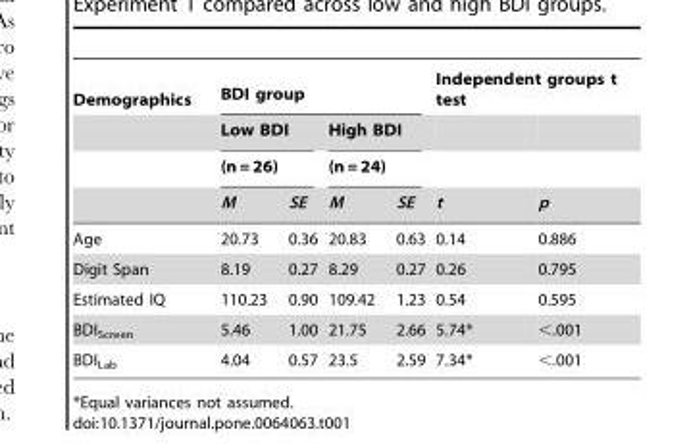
<table><thead><tr><td rowspan="4">Demographics</td><td colspan="4">BDI group</td><td colspan="2">Independent groups t test</td></tr><tr><td rowspan="2" colspan="2">Low BDI (n = 26)</td><td rowspan="2" colspan="2">High BDI (n = 24)</td><td rowspan="3">t</td><td rowspan="3">p</td></tr><tr></tr><tr><td>M</td><td>SE</td><td>M</td><td>SE</td></tr></thead><tbody><tr><td>Age</td><td>20.73</td><td>0.36</td><td>20.83</td><td>0.63</td><td>0.14</td><td>0.886</td></tr><tr><td>Digit Span</td><td>8.19</td><td>0.27</td><td>8.29</td><td>0.27</td><td>0.26</td><td>0.795</td></tr><tr><td>Estimated IQ</td><td>110.23</td><td>0.90</td><td>109.42</td><td>1.23</td><td>0.54</td><td>0.595</td></tr><tr><td>BDI<sub>Screen</sub></td><td>5.46</td><td>1.00</td><td>21.75</td><td>2.66</td><td>5.74*</td><td>&lt;.001</td></tr><tr><td>BDI<sub>Lab</sub></td><td>4.04</td><td>0.57</td><td>23.5</td><td>2.59</td><td>7.34*</td><td>&lt;.001</td></tr></tbody></table>